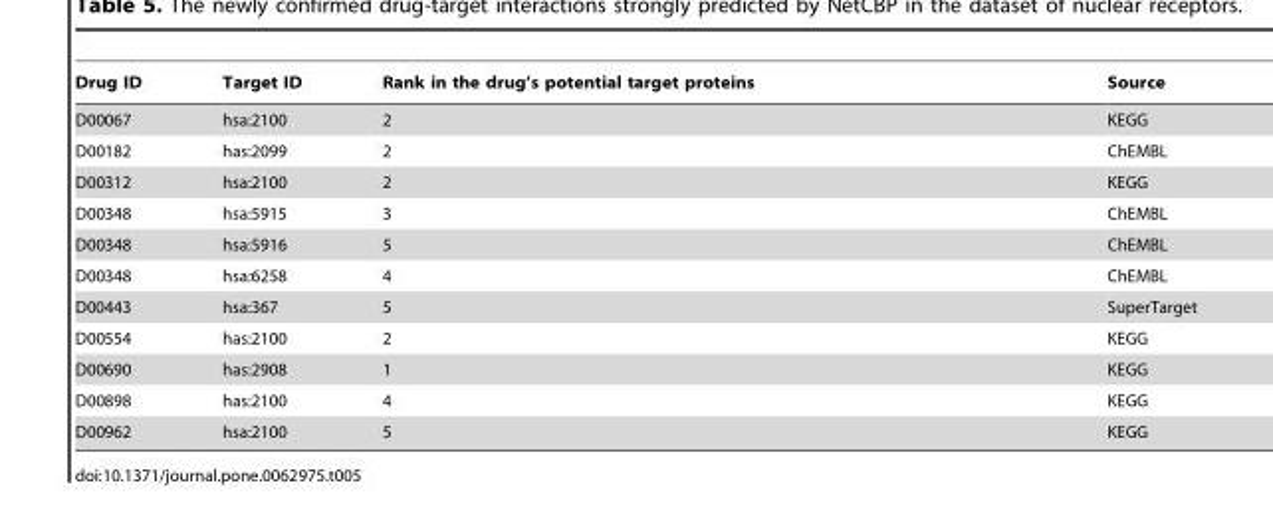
<table><thead><tr><td>Drug ID</td><td>Target ID</td><td>Rank in the drug’s potential target proteins</td><td>Source</td></tr></thead><tbody><tr><td>D00067</td><td>hsa:2100</td><td>2</td><td>KEGG</td></tr><tr><td>D00182</td><td>has:2099</td><td>2</td><td>ChEMBL</td></tr><tr><td>D00312</td><td>hsa:2100</td><td>2</td><td>KEGG</td></tr><tr><td>D00348</td><td>hsa:5915</td><td>3</td><td>ChEMBL</td></tr><tr><td>D00348</td><td>hsa:5916</td><td>5</td><td>ChEMBL</td></tr><tr><td>D00348</td><td>hsa:6258</td><td>4</td><td>ChEMBL</td></tr><tr><td>D00443</td><td>hsa:367</td><td>5</td><td>SuperTarget</td></tr><tr><td>D00554</td><td>has:2100</td><td>2</td><td>KEGG</td></tr><tr><td>D00690</td><td>has:2908</td><td>1</td><td>KEGG</td></tr><tr><td>D00898</td><td>has:2100</td><td>4</td><td>KEGG</td></tr><tr><td>D00962</td><td>hsa:2100</td><td>5</td><td>KEGG</td></tr></tbody></table>